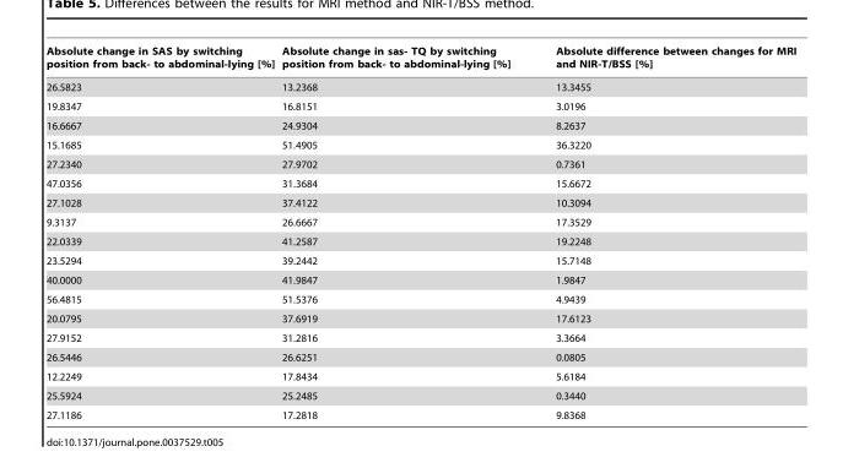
<table><thead><tr><td>Absolute change in SAS by switching position from back- to abdominal-lying [%]</td><td>Absolute change in sas- TQ by switching position from back- to abdominal-lying [%]</td><td>Absolute difference between changes for MRI and NIR-T/BSS [%]</td></tr></thead><tbody><tr><td>26.5823</td><td>13.2368</td><td>13.3455</td></tr><tr><td>19.8347</td><td>16.8151</td><td>3.0196</td></tr><tr><td>16.6667</td><td>24.9304</td><td>8.2637</td></tr><tr><td>15.1685</td><td>51.4905</td><td>36.3220</td></tr><tr><td>27.2340</td><td>27.9702</td><td>0.7361</td></tr><tr><td>47.0356</td><td>31.3684</td><td>15.6672</td></tr><tr><td>27.1028</td><td>37.4122</td><td>10.3094</td></tr><tr><td>9.3137</td><td>26.6667</td><td>17.3529</td></tr><tr><td>22.0339</td><td>41.2587</td><td>19.2248</td></tr><tr><td>23.5294</td><td>39.2442</td><td>15.7148</td></tr><tr><td>40.0000</td><td>41.9847</td><td>1.9847</td></tr><tr><td>56.4815</td><td>51.5376</td><td>4.9439</td></tr><tr><td>20.0795</td><td>37.6919</td><td>17.6123</td></tr><tr><td>27.9152</td><td>31.2816</td><td>3.3664</td></tr><tr><td>26.5446</td><td>26.6251</td><td>0.0805</td></tr><tr><td>12.2249</td><td>17.8434</td><td>5.6184</td></tr><tr><td>25.5924</td><td>25.2485</td><td>0.3440</td></tr><tr><td>27.1186</td><td>17.2818</td><td>9.8368</td></tr></tbody></table>